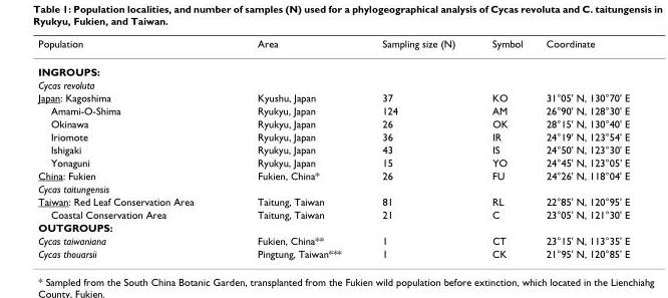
<table><thead><tr><td>Population</td><td>Area</td><td>Sampling size (N)</td><td>Symbol</td><td>Coordinate</td></tr></thead><tbody><tr><td colspan="5">INGROUPS:</td></tr><tr><td colspan="5">Cycas revoluta</td></tr><tr><td>Japan: Kagoshima</td><td>Kyushu, Japan</td><td>37</td><td>KO</td><td>31°05&#x27; N, 130°70&#x27; E</td></tr><tr><td>Amami-O-Shima</td><td>Ryukyu, Japan</td><td>124</td><td>AM</td><td>26°90&#x27; N, 128°30&#x27; E</td></tr><tr><td>Okinawa</td><td>Ryukyu, Japan</td><td>26</td><td>OK</td><td>28°15&#x27; N, 130°40&#x27; E</td></tr><tr><td>Iriomote</td><td>Ryukyu, Japan</td><td>36</td><td>IR</td><td>24°19&#x27; N, 123°54&#x27; E</td></tr><tr><td>Ishigaki</td><td>Ryukyu, Japan</td><td>43</td><td>IS</td><td>24°50&#x27; N, 123°30&#x27; E</td></tr><tr><td>Yonaguni</td><td>Ryukyu, Japan</td><td>15</td><td>YO</td><td>24°45&#x27; N, 123°05&#x27; E</td></tr><tr><td>China: Fukien</td><td>Fukien, China*</td><td>26</td><td>FU</td><td>24°26&#x27; N, 118°04&#x27; E</td></tr><tr><td colspan="5">Cycas taitungensis</td></tr><tr><td>Taiwan: Red Leaf Conservation Area</td><td>Taitung, Taiwan</td><td>81</td><td>RL</td><td>22°85&#x27; N, 120°95&#x27; E</td></tr><tr><td>Coastal Conservation Area</td><td>Taitung, Taiwan</td><td>21</td><td>C</td><td>23°05&#x27; N, 121°30&#x27; E</td></tr><tr><td colspan="5">OUTGROUPS:</td></tr><tr><td>Cycas taiwaniana</td><td>Fukien, China**</td><td>1</td><td>CT</td><td>23°15&#x27; N, 113°35&#x27; E</td></tr><tr><td>Cycas thouarsii</td><td>Pingtung, Taiwan***</td><td>1</td><td>CK</td><td>21°95&#x27; N, 120°85&#x27; E</td></tr></tbody></table>